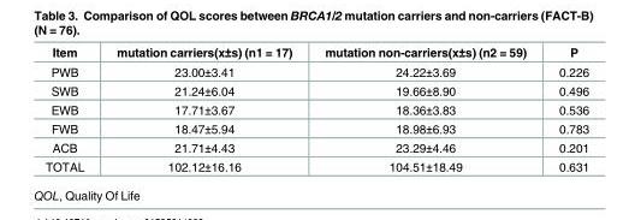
<table><thead><tr><td>Item</td><td>mutation carriers(x±s) (n1 = 17)</td><td>mutation non-carriers(x±s) (n2 = 59)</td><td>P</td></tr></thead><tbody><tr><td>PWB</td><td>23.00±3.41</td><td>24.22±3.69</td><td>0.226</td></tr><tr><td>SWB</td><td>21.24±6.04</td><td>19.66±8.90</td><td>0.496</td></tr><tr><td>EWB</td><td>17.71±3.67</td><td>18.36±3.83</td><td>0.536</td></tr><tr><td>FWB</td><td>18.47±5.94</td><td>18.98±6.93</td><td>0.783</td></tr><tr><td>ACB</td><td>21.71±4.43</td><td>23.29±4.46</td><td>0.201</td></tr><tr><td>TOTAL</td><td>102.12±16.16</td><td>104.51±18.49</td><td>0.631</td></tr></tbody></table>